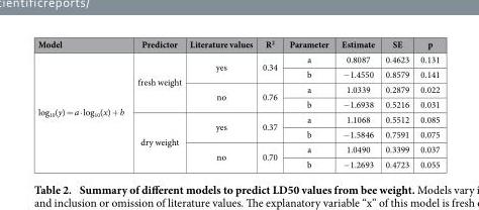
<table><thead><tr><td>Model</td><td>Predictor</td><td>Literature values</td><td>R<sup>2</sup></td><td>Parameter</td><td>Estimate</td><td>SE</td><td>p</td></tr></thead><tbody><tr><td rowspan="8">log<sub>10</sub>(y) = a · log<sub>10</sub>(x) + b</td><td rowspan="4">fresh weight</td><td rowspan="2">yes</td><td rowspan="2">0.34</td><td>a</td><td>0.8087</td><td>0.4623</td><td>0.131</td></tr><tr><td>b</td><td>− 1.4550</td><td>0.8579</td><td>0.141</td></tr><tr><td rowspan="2">no</td><td rowspan="2">0.76</td><td>a</td><td>1.0339</td><td>0.2879</td><td>0.022</td></tr><tr><td>b</td><td>− 1.6938</td><td>0.5216</td><td>0.031</td></tr><tr><td rowspan="4">dry weight</td><td rowspan="2">yes</td><td rowspan="2">0.37</td><td>a</td><td>1.1068</td><td>0.5512</td><td>0.085</td></tr><tr><td>b</td><td>− 1.5846</td><td>0.7591</td><td>0.075</td></tr><tr><td rowspan="2">no</td><td rowspan="2">0.70</td><td>a</td><td>1.0490</td><td>0.3399</td><td>0.037</td></tr><tr><td>b</td><td>− 1.2693</td><td>0.4723</td><td>0.055</td></tr></tbody></table>